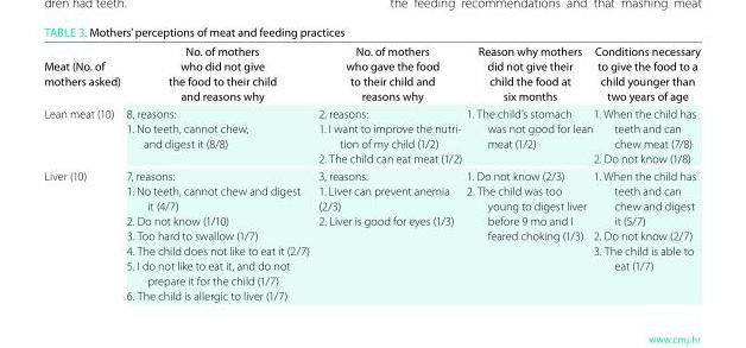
<table><thead><tr><td>Meat (No. of mothers asked)</td><td>No. of mothers who did not give the food to their child and reasons why</td><td>No. of mothers who gave the food to their child and reasons why</td><td>Reason why mothers did not give their child the food at six months</td><td>Conditions necessary to give the food to a child younger than two years of age</td></tr></thead><tbody><tr><td>Lean meat (10)</td><td>8, reasons: 1. No teeth, cannot chew, and digest it (8/8)</td><td>2, reasons: 1. I want to improve the nutri- tion of my child (1/2) 2. The child can eat meat (1/2)</td><td>1. The child’s stomach was not good for lean meat (1/2)</td><td>1. When the child has teeth and can chew meat (7/8) 2. Do not know (1/8)</td></tr><tr><td>Liver (10)</td><td>7, reasons: 1. No teeth, cannot chew and digest it (4/7) 2. Do not know (1/10) 3. Too hard to swallow (1/7) 4. The child does not like to eat it (2/7) 5. I do not like to eat it, and do not prepare it for the child (1/7) 6. The child is allergic to liver (1/7)</td><td>3, reasons: 1. Liver can prevent anemia (2/3) 2. Liver is good for eyes (1/3)</td><td>1. Do not know (2/3) 2. The child was too young to digest liver before 9 mo and I feared choking (1/3)</td><td>1. When the child has teeth and can chew and digest it (5/7) 2. Do not know (2/7) 3. The child is able to eat (1/7)</td></tr></tbody></table>